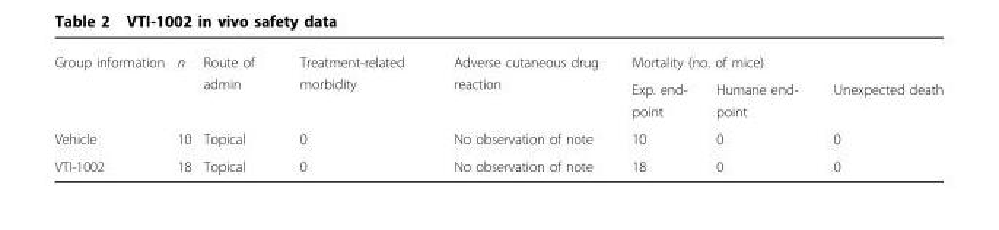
<table><tbody><tr><td rowspan="2">Group information</td><td rowspan="2">n</td><td rowspan="2">Route of admin</td><td rowspan="2">Treatment-related morbidity</td><td rowspan="2">Adverse cutaneous drug reaction</td><td colspan="3">Mortality (no. of mice)</td></tr><tr><td>Exp. end- point</td><td>Humane end- point</td><td>Unexpected death</td></tr><tr><td>Vehicle</td><td>10</td><td>Topical</td><td>0</td><td>No observation of note</td><td>10</td><td>0</td><td>0</td></tr><tr><td>VTI-1002</td><td>18</td><td>Topical</td><td>0</td><td>No observation of note</td><td>18</td><td>0</td><td>0</td></tr></tbody></table>